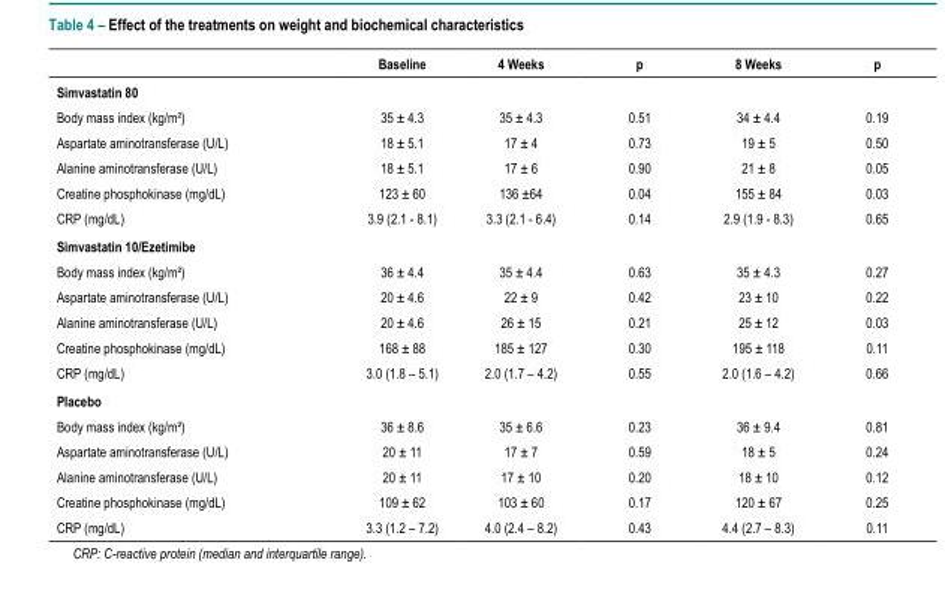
<table><thead><tr><td></td><td>Baseline</td><td>4 Weeks</td><td>p</td><td>8 Weeks</td><td>p</td></tr></thead><tbody><tr><td colspan="6">Simvastatin 80</td></tr><tr><td>Body mass index (kg/m²)</td><td>35 ± 4.3</td><td>35 ± 4.3</td><td>0.51</td><td>34 ± 4.4</td><td>0.19</td></tr><tr><td>Aspartate aminotransferase (U/L)</td><td>18 ± 5.1</td><td>17 ± 4</td><td>0.73</td><td>19 ± 5</td><td>0.50</td></tr><tr><td>Alanine aminotransferase (U/L)</td><td>18 ± 5.1</td><td>17 ± 6</td><td>0.90</td><td>21 ± 8</td><td>0.05</td></tr><tr><td>Creatine phosphokinase (mg/dL)</td><td>123 ± 60</td><td>136 ±64</td><td>0.04</td><td>155 ± 84</td><td>0.03</td></tr><tr><td>CRP (mg/dL)</td><td>3.9 (2.1 - 8.1)</td><td>3.3 (2.1 - 6.4)</td><td>0.14</td><td>2.9 (1.9 - 8.3)</td><td>0.65</td></tr><tr><td colspan="6">Simvastatin 10/Ezetimibe</td></tr><tr><td>Body mass index (kg/m²)</td><td>36 ± 4.4</td><td>35 ± 4.4</td><td>0.63</td><td>35 ± 4.3</td><td>0.27</td></tr><tr><td>Aspartate aminotransferase (U/L)</td><td>20 ± 4.6</td><td>22 ± 9</td><td>0.42</td><td>23 ± 10</td><td>0.22</td></tr><tr><td>Alanine aminotransferase (U/L)</td><td>20 ± 4.6</td><td>26 ± 15</td><td>0.21</td><td>25 ± 12</td><td>0.03</td></tr><tr><td>Creatine phosphokinase (mg/dL)</td><td>168 ± 88</td><td>185 ± 127</td><td>0.30</td><td>195 ± 118</td><td>0.11</td></tr><tr><td>CRP (mg/dL)</td><td>3.0 (1.8 – 5.1)</td><td>2.0 (1.7 – 4.2)</td><td>0.55</td><td>2.0 (1.6 – 4.2)</td><td>0.66</td></tr><tr><td colspan="6">Placebo</td></tr><tr><td>Body mass index (kg/m²)</td><td>36 ± 8.6</td><td>35 ± 6.6</td><td>0.23</td><td>36 ± 9.4</td><td>0.81</td></tr><tr><td>Aspartate aminotransferase (U/L)</td><td>20 ± 11</td><td>17 ± 7</td><td>0.59</td><td>18 ± 5</td><td>0.24</td></tr><tr><td>Alanine aminotransferase (U/L)</td><td>20 ± 11</td><td>17 ± 10</td><td>0.20</td><td>18 ± 10</td><td>0.12</td></tr><tr><td>Creatine phosphokinase (mg/dL)</td><td>109 ± 62</td><td>103 ± 60</td><td>0.17</td><td>120 ± 67</td><td>0.25</td></tr><tr><td>CRP (mg/dL)</td><td>3.3 (1.2 – 7.2)</td><td>4.0 (2.4 – 8.2)</td><td>0.43</td><td>4.4 (2.7 – 8.3)</td><td>0.11</td></tr></tbody></table>